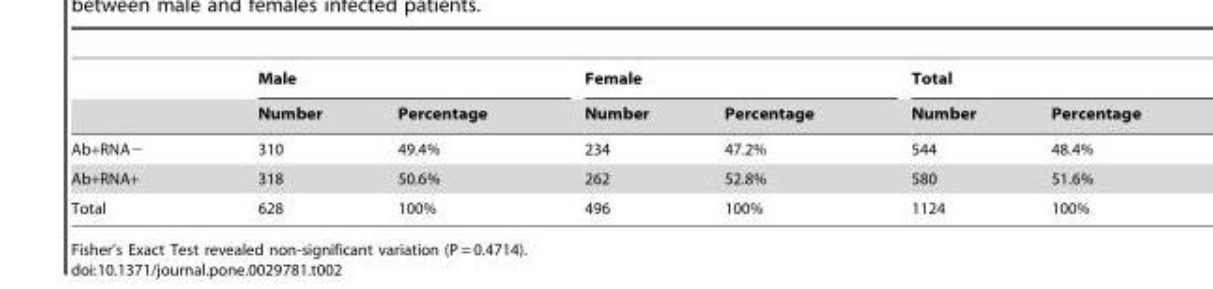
<table><thead><tr><td rowspan="2"></td><td colspan="2">Male</td><td colspan="2">Female</td><td colspan="2">Total</td></tr><tr><td>Number</td><td>Percentage</td><td>Number</td><td>Percentage</td><td>Number</td><td>Percentage</td></tr></thead><tbody><tr><td>Ab+RNA−</td><td>310</td><td>49.4%</td><td>234</td><td>47.2%</td><td>544</td><td>48.4%</td></tr><tr><td>Ab+RNA+</td><td>318</td><td>50.6%</td><td>262</td><td>52.8%</td><td>580</td><td>51.6%</td></tr><tr><td>Total</td><td>628</td><td>100%</td><td>496</td><td>100%</td><td>1124</td><td>100%</td></tr></tbody></table>